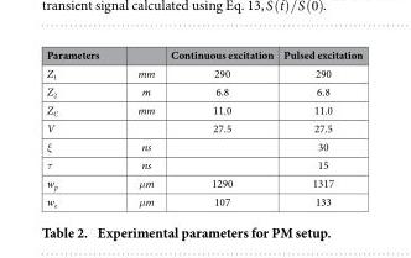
<table><thead><tr><td>Parameters</td><td></td><td>Continuous excitation</td><td>Pulsed excitation</td></tr></thead><tbody><tr><td>Z<sub>1</sub></td><td>mm</td><td>290</td><td>290</td></tr><tr><td>Z<sub>2</sub></td><td>m</td><td>6.8</td><td>6.8</td></tr><tr><td>Z<sub>C</sub></td><td>mm</td><td>11.0</td><td>11.0</td></tr><tr><td>V</td><td></td><td>27.5</td><td>27.5</td></tr><tr><td>ξ</td><td>ns</td><td></td><td>30</td></tr><tr><td>τ</td><td>ns</td><td></td><td>15</td></tr><tr><td>w<sub>p</sub></td><td>μm</td><td>1290</td><td>1317</td></tr><tr><td>w<sub>e</sub></td><td>μm</td><td>107</td><td>133</td></tr></tbody></table>